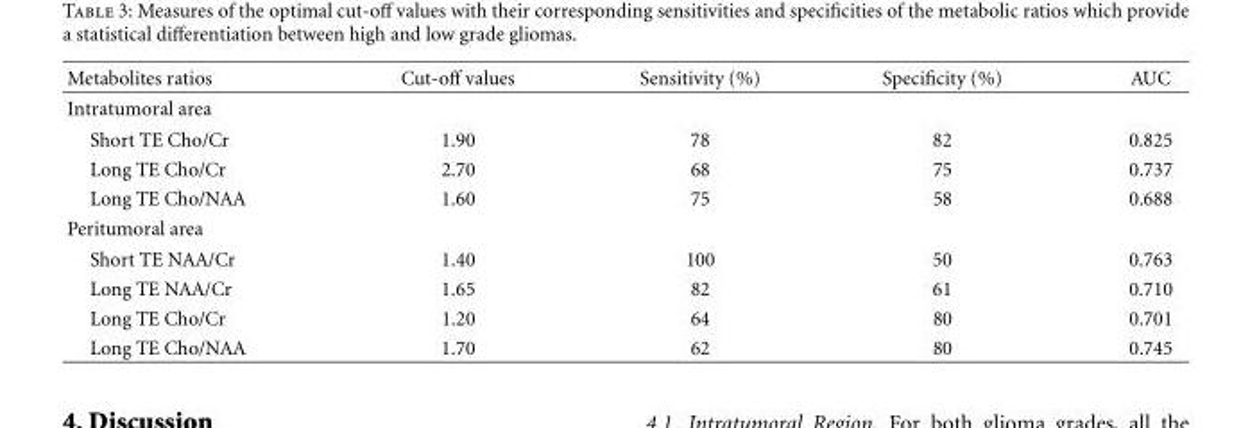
<table><thead><tr><td>Metabolites ratios</td><td>Cut-off values</td><td>Sensitivity (%)</td><td>Specificity (%)</td><td>AUC</td></tr></thead><tbody><tr><td colspan="5">Intratumoral area</td></tr><tr><td>Short TE Cho/Cr</td><td>1.90</td><td>78</td><td>82</td><td>0.825</td></tr><tr><td>Long TE Cho/Cr</td><td>2.70</td><td>68</td><td>75</td><td>0.737</td></tr><tr><td>Long TE Cho/NAA</td><td>1.60</td><td>75</td><td>58</td><td>0.688</td></tr><tr><td colspan="5">Peritumoral area</td></tr><tr><td>Short TE NAA/Cr</td><td>1.40</td><td>100</td><td>50</td><td>0.763</td></tr><tr><td>Long TE NAA/Cr</td><td>1.65</td><td>82</td><td>61</td><td>0.710</td></tr><tr><td>Long TE Cho/Cr</td><td>1.20</td><td>64</td><td>80</td><td>0.701</td></tr><tr><td>Long TE Cho/NAA</td><td>1.70</td><td>62</td><td>80</td><td>0.745</td></tr></tbody></table>